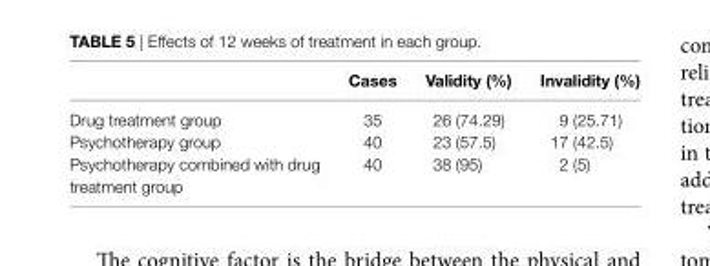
<table><thead><tr><td></td><td>cases</td><td>Validity (%)</td><td>invalidity (%)</td></tr></thead><tbody><tr><td>Drug treatment group</td><td>35</td><td>26 (74.29)</td><td>9 (25.71)</td></tr><tr><td>Psychotherapy group</td><td>40</td><td>23 (57.5)</td><td>17 (42.5)</td></tr><tr><td>Psychotherapy combined with drug treatment group</td><td>40</td><td>38 (95)</td><td>2 (5)</td></tr></tbody></table>